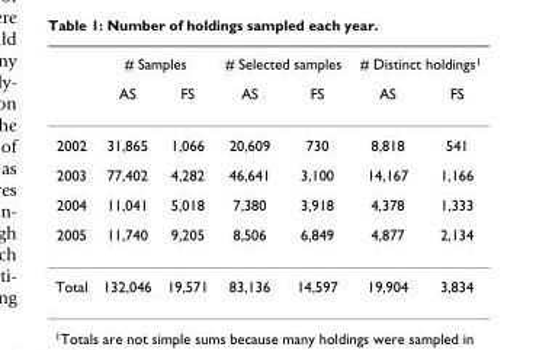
<table><thead><tr><td rowspan="2"></td><td colspan="2"># Samples</td><td colspan="2"># Selected samples</td><td colspan="2"># Distinct holdings<sup>1</sup></td></tr><tr><td>AS</td><td>FS</td><td>AS</td><td>FS</td><td>AS</td><td>FS</td></tr></thead><tbody><tr><td>2002</td><td>31,865</td><td>1,066</td><td>20,609</td><td>730</td><td>8,818</td><td>541</td></tr><tr><td>2003</td><td>77,402</td><td>4,282</td><td>46,641</td><td>3,100</td><td>14,167</td><td>1,166</td></tr><tr><td>2004</td><td>11,041</td><td>5,018</td><td>7,380</td><td>3,918</td><td>4,378</td><td>1,333</td></tr><tr><td>2005</td><td>11,740</td><td>9,205</td><td>8,506</td><td>6,849</td><td>4,877</td><td>2,134</td></tr><tr><td>Total</td><td>132,046</td><td>19,571</td><td>83,136</td><td>14,597</td><td>19,904</td><td>3,834</td></tr></tbody></table>